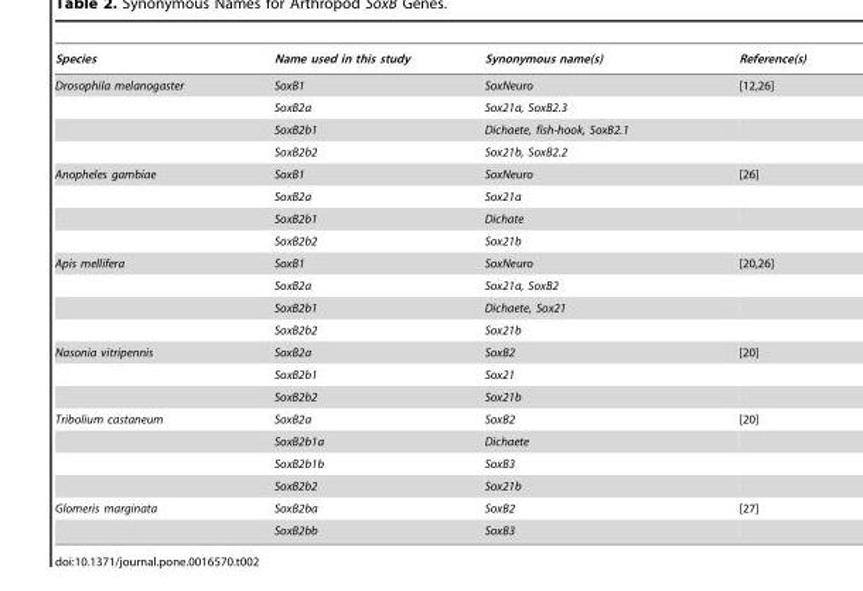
<table><thead><tr><td>Species</td><td>Name used in this study</td><td>Synonymous name(s)</td><td>Reference(s)</td></tr></thead><tbody><tr><td rowspan="4">Drosophila melanogaster</td><td>SoxB1</td><td>SoxNeuro</td><td>[12,26]</td></tr><tr><td>SoxB2a</td><td>Sox21a, SoxB2.3</td><td></td></tr><tr><td>SoxB2b1</td><td>Dichaete, fish-hook, SoxB2.1</td><td></td></tr><tr><td>SoxB2b2</td><td>Sox21b, SoxB2.2</td><td></td></tr><tr><td rowspan="4">Anopheles gambiae</td><td>SoxB1</td><td>SoxNeuro</td><td>[26]</td></tr><tr><td>SoxB2a</td><td>Sox21a</td><td></td></tr><tr><td>SoxB2b1</td><td>Dichate</td><td></td></tr><tr><td>SoxB2b2</td><td>Sox21b</td><td></td></tr><tr><td rowspan="4">Apis mellifera</td><td>SoxB1</td><td>SoxNeuro</td><td>[20,26]</td></tr><tr><td>SoxB2a</td><td>Sox21a, SoxB2</td><td></td></tr><tr><td>SoxB2b1</td><td>Dichaete, Sox21</td><td></td></tr><tr><td>SoxB2b2</td><td>Sox21b</td><td></td></tr><tr><td rowspan="3">Nasonia vitripennis</td><td>SoxB2a</td><td>SoxB2</td><td>[20]</td></tr><tr><td>SoxB2b1</td><td>Sox21</td><td></td></tr><tr><td>SoxB2b2</td><td>Sox21b</td><td></td></tr><tr><td rowspan="4">Tribolium castaneum</td><td>SoxB2a</td><td>SoxB2</td><td>[20]</td></tr><tr><td>SoxB2b1a</td><td>Dichaete</td><td></td></tr><tr><td>SoxB2b1b</td><td>SoxB3</td><td></td></tr><tr><td>SoxB2b2</td><td>Sox21b</td><td></td></tr><tr><td rowspan="2">Glomeris marginata</td><td>SoxB2ba</td><td>SoxB2</td><td>[27]</td></tr><tr><td>SoxB2bb</td><td>SoxB3</td><td></td></tr></tbody></table>